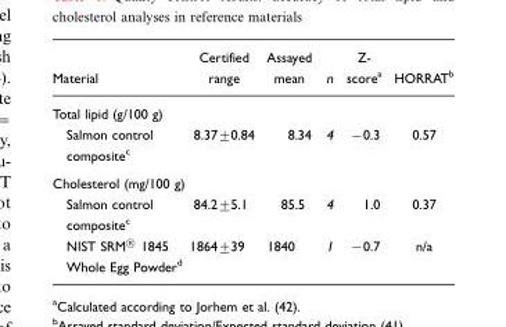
<table><thead><tr><td>Material</td><td>Certified range</td><td>Assayed mean</td><td>n</td><td>Z- score<sup>a</sup></td><td>HORRAT<sup>b</sup></td></tr></thead><tbody><tr><td colspan="6">Total lipid (g/100 g)</td></tr><tr><td>Salmon control composite<sup>c</sup></td><td>8.37±0.84</td><td>8.34</td><td>4</td><td>−0.3</td><td>0.57</td></tr><tr><td colspan="6">Cholesterol (mg/100 g)</td></tr><tr><td>Salmon control composite<sup>c</sup></td><td>84.2±5.1</td><td>85.5</td><td>4</td><td>1.0</td><td>0.37</td></tr><tr><td>NIST SRM† 1845 Whole Egg Powderd</td><td>1864±39</td><td>1840</td><td>1</td><td>−0.7</td><td>n/a</td></tr></tbody></table>